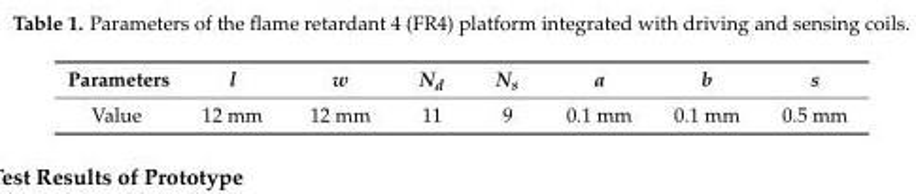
<table><thead><tr><td>Parameters</td><td>l</td><td>w</td><td>N<sub>d</sub></td><td>N<sub>s</sub></td><td>a</td><td>b</td><td>s</td></tr></thead><tbody><tr><td>Value</td><td>12 mm</td><td>12 mm</td><td>11</td><td>9</td><td>0.1 mm</td><td>0.1 mm</td><td>0.5 mm</td></tr></tbody></table>